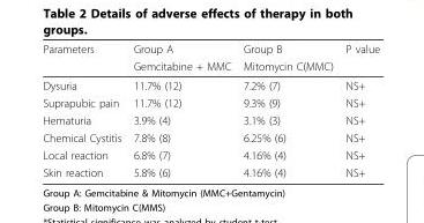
<table><thead><tr><td rowspan="2">Parameters</td><td rowspan="2">Group A Gemcitabine + MMC</td><td rowspan="2">Group B Mitomycin C(MMC)</td><td rowspan="2">P value</td></tr><tr></tr></thead><tbody><tr><td>Dysuria</td><td>11.7% (12)</td><td>7.2% (7)</td><td>NS+</td></tr><tr><td>Suprapubic pain</td><td>11.7% (12)</td><td>9.3% (9)</td><td>NS+</td></tr><tr><td>Hematuria</td><td>3.9% (4)</td><td>3.1% (3)</td><td>NS+</td></tr><tr><td>Chemical Cystitis</td><td>7.8% (8)</td><td>6.25% (6)</td><td>NS+</td></tr><tr><td>Local reaction</td><td>6.8% (7)</td><td>4.16% (4)</td><td>NS+</td></tr><tr><td>Skin reaction</td><td>5.8% (6)</td><td>4.16% (4)</td><td>NS+</td></tr></tbody></table>